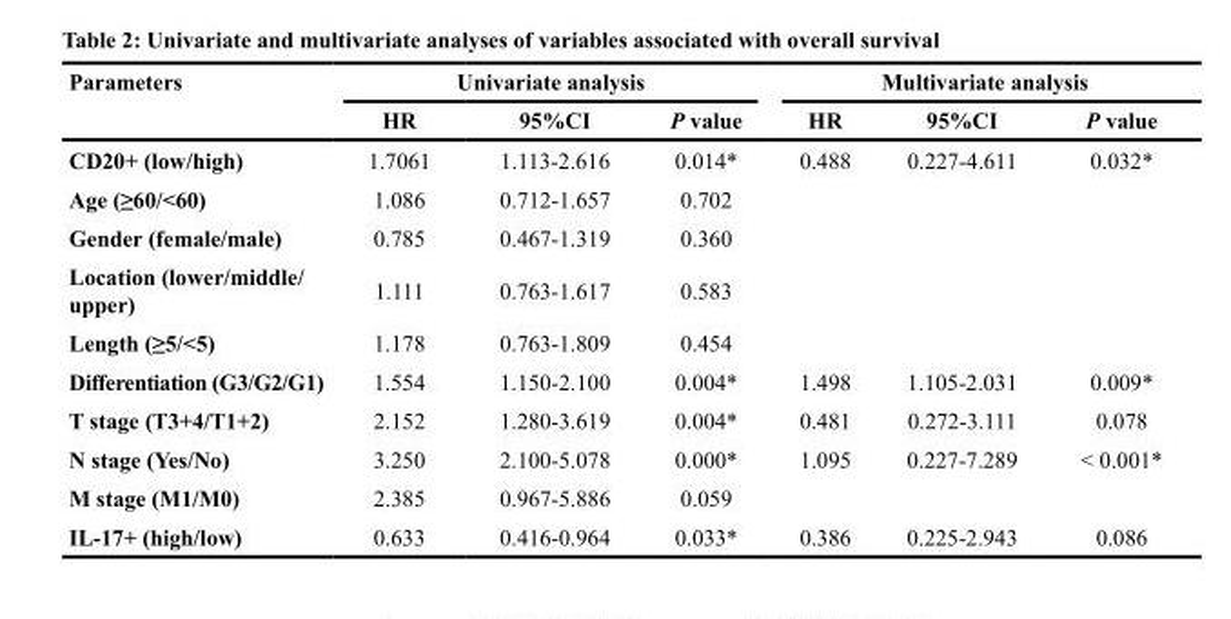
<table><thead><tr><td rowspan="2">Parameters</td><td colspan="3">Univariate analysis</td><td colspan="3">Multivariate analysis</td></tr><tr><td>HR</td><td>95%CI</td><td>P value</td><td>HR</td><td>95%CI</td><td>P value</td></tr></thead><tbody><tr><td>CD20+ (low/high)</td><td>1.7061</td><td>1.113-2.616</td><td>0.014*</td><td>0.488</td><td>0.227-4.611</td><td>0.032*</td></tr><tr><td>Age (≥60/&lt;60)</td><td>1.086</td><td>0.712-1.657</td><td>0.702</td><td></td><td></td><td></td></tr><tr><td>Gender (female/male)</td><td>0.785</td><td>0.467-1.319</td><td>0.360</td><td></td><td></td><td></td></tr><tr><td>Location (lower/middle/ upper)</td><td>1.111</td><td>0.763-1.617</td><td>0.583</td><td></td><td></td><td></td></tr><tr><td>Length (≥5/&lt;5)</td><td>1.178</td><td>0.763-1.809</td><td>0.454</td><td></td><td></td><td></td></tr><tr><td>Differentiation (G3/G2/G1)</td><td>1.554</td><td>1.150-2.100</td><td>0.004*</td><td>1.498</td><td>1.105-2.031</td><td>0.009*</td></tr><tr><td>T stage (T3+4/T1+2)</td><td>2.152</td><td>1.280-3.619</td><td>0.004*</td><td>0.481</td><td>0.272-3.111</td><td>0.078</td></tr><tr><td>N stage (Yes/No)</td><td>3.250</td><td>2.100-5.078</td><td>0.000*</td><td>1.095</td><td>0.227-7.289</td><td>&lt; 0.001*</td></tr><tr><td>M stage (M1/M0)</td><td>2.385</td><td>0.967-5.886</td><td>0.059</td><td></td><td></td><td></td></tr><tr><td>IL-17+ (high/low)</td><td>0.633</td><td>0.416-0.964</td><td>0.033*</td><td>0.386</td><td>0.225-2.943</td><td>0.086</td></tr></tbody></table>